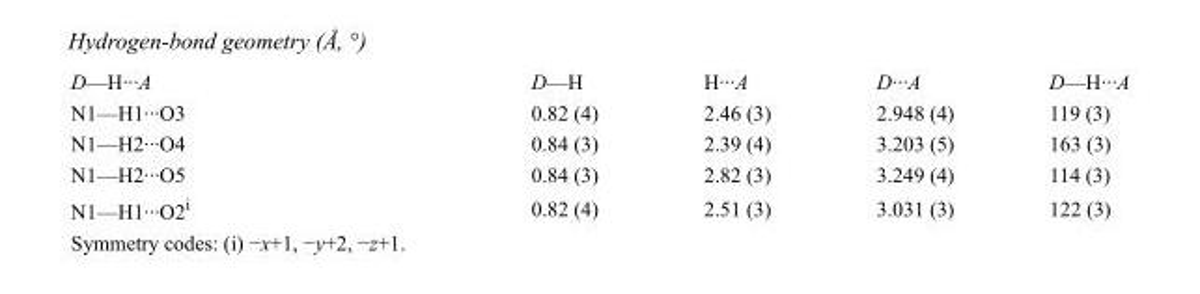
<table><tbody><tr><td>D—H···A</td><td>D—H</td><td>H···A</td><td>D···A</td><td>D—H···A</td></tr><tr><td>N1—H1···O3</td><td>0.82 (4)</td><td>2.46 (3)</td><td>2.948 (4)</td><td>119 (3)</td></tr><tr><td>N1—H2···O4</td><td>0.84 (3)</td><td>2.39 (4)</td><td>3.203 (5)</td><td>163 (3)</td></tr><tr><td>N1—H2···O5</td><td>0.84 (3)</td><td>2.82 (3)</td><td>3.249 (4)</td><td>114 (3)</td></tr><tr><td>N1—H1···O2<sup>i</sup></td><td>0.82 (4)</td><td>2.51 (3)</td><td>3.031 (3)</td><td>122 (3)</td></tr></tbody></table>